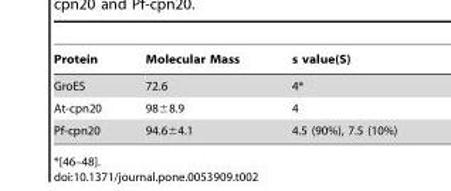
<table><thead><tr><td>Protein</td><td>Molecular Mass</td><td>s value(S)</td></tr></thead><tbody><tr><td>GroES</td><td>72.6</td><td>4*</td></tr><tr><td>At-cpn20</td><td>98±8.9</td><td>4</td></tr><tr><td>Pf-cpn20</td><td>94.6±4.1</td><td>4.5 (90%), 7.5 (10%)</td></tr></tbody></table>